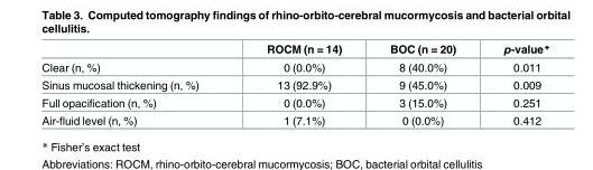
<table><thead><tr><td></td><td>ROCM (n = 14)</td><td>BOC (n = 20)</td><td>p-value*</td></tr></thead><tbody><tr><td>Clear (n, %)</td><td>0 (0.0%)</td><td>8 (40.0%)</td><td>0.011</td></tr><tr><td>Sinus mucosal thickening (n, %)</td><td>13 (92.9%)</td><td>9 (45.0%)</td><td>0.009</td></tr><tr><td>Full opacification (n, %)</td><td>0 (0.0%)</td><td>3 (15.0%)</td><td>0.251</td></tr><tr><td>Air-fluid level (n, %)</td><td>1 (7.1%)</td><td>0 (0.0%)</td><td>0.412</td></tr></tbody></table>